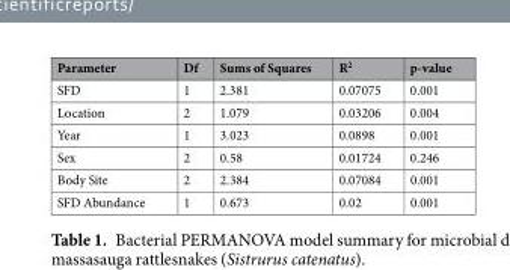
<table><thead><tr><td>Parameter</td><td>Df</td><td>Sums of Squares</td><td>R<sup>2</sup></td><td>p-value</td></tr></thead><tbody><tr><td>SFD</td><td>1</td><td>2.381</td><td>0.07075</td><td>0.001</td></tr><tr><td>Location</td><td>2</td><td>1.079</td><td>0.03206</td><td>0.004</td></tr><tr><td>Year</td><td>1</td><td>3.023</td><td>0.0898</td><td>0.001</td></tr><tr><td>Sex</td><td>2</td><td>0.58</td><td>0.01724</td><td>0.246</td></tr><tr><td>Body Site</td><td>2</td><td>2.384</td><td>0.07084</td><td>0.001</td></tr><tr><td>SFD Abundance</td><td>1</td><td>0.673</td><td>0.02</td><td>0.001</td></tr></tbody></table>